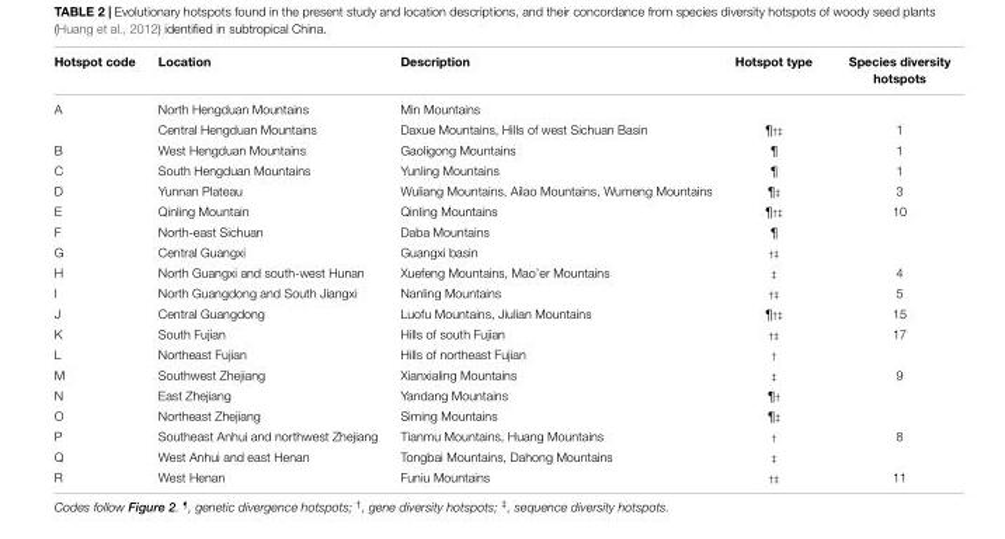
<table><thead><tr><td>Hotspot code</td><td>Location</td><td>Description</td><td>Hotspot type</td><td>Species diversity hotspots</td></tr></thead><tbody><tr><td rowspan="2">A</td><td>North Hengduan Mountains</td><td>Min Mountains</td><td></td><td></td></tr><tr><td>Central Hengduan Mountains</td><td>Daxue Mountains, Hills of west Sichuan Basin</td><td>¶†‡</td><td>1</td></tr><tr><td>B</td><td>West Hengduan Mountains</td><td>Gaoligong Mountains</td><td>¶</td><td>1</td></tr><tr><td>C</td><td>South Hengduan Mountains</td><td>Yunling Mountains</td><td>¶</td><td>1</td></tr><tr><td>D</td><td>Yunnan Plateau</td><td>Wuliang Mountains, Ailao Mountains, Wumeng Mountains</td><td>¶‡</td><td>3</td></tr><tr><td>E</td><td>Qinling Mountain</td><td>Qinling Mountains</td><td>¶†‡</td><td>10</td></tr><tr><td>F</td><td>North-east Sichuan</td><td>Daba Mountains</td><td>¶</td><td></td></tr><tr><td>G</td><td>Central Guangxi</td><td>Guangxi basin</td><td>†‡</td><td></td></tr><tr><td>H</td><td>North Guangxi and south-west Hunan</td><td>Xuefeng Mountains, Mao’er Mountains</td><td>‡</td><td>4</td></tr><tr><td>I</td><td>North Guangdong and South Jiangxi</td><td>Nanling Mountains</td><td>†‡</td><td>5</td></tr><tr><td>J</td><td>Central Guangdong</td><td>Luofu Mountains, Jiulian Mountains</td><td>¶†‡</td><td>15</td></tr><tr><td>K</td><td>South Fujian</td><td>Hills of south Fujian</td><td>†‡</td><td>17</td></tr><tr><td>L</td><td>Northeast Fujian</td><td>Hills of northeast Fujian</td><td>†</td><td></td></tr><tr><td>M</td><td>Southwest Zhejiang</td><td>Xianxialing Mountains</td><td>‡</td><td>9</td></tr><tr><td>N</td><td>East Zhejiang</td><td>Yandang Mountains</td><td>¶†</td><td></td></tr><tr><td>O</td><td>Northeast Zhejiang</td><td>Siming Mountains</td><td>¶‡</td><td></td></tr><tr><td>P</td><td>Southeast Anhui and northwest Zhejiang</td><td>Tianmu Mountains, Huang Mountains</td><td>†</td><td>8</td></tr><tr><td>Q</td><td>West Anhui and east Henan</td><td>Tongbai Mountains, Dahong Mountains</td><td>‡</td><td></td></tr><tr><td>R</td><td>West Henan</td><td>Funiu Mountains</td><td>†‡</td><td>11</td></tr></tbody></table>